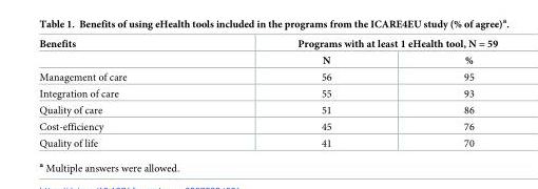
<table><thead><tr><td rowspan="2">Benefits</td><td colspan="2">Programs with at least 1 eHealth tool, N = 59</td></tr><tr><td>N</td><td>%</td></tr></thead><tbody><tr><td>Management of care</td><td>56</td><td>95</td></tr><tr><td>Integration of care</td><td>55</td><td>93</td></tr><tr><td>Quality of care</td><td>51</td><td>86</td></tr><tr><td>Cost-efficiency</td><td>45</td><td>76</td></tr><tr><td>Quality of life</td><td>41</td><td>70</td></tr></tbody></table>